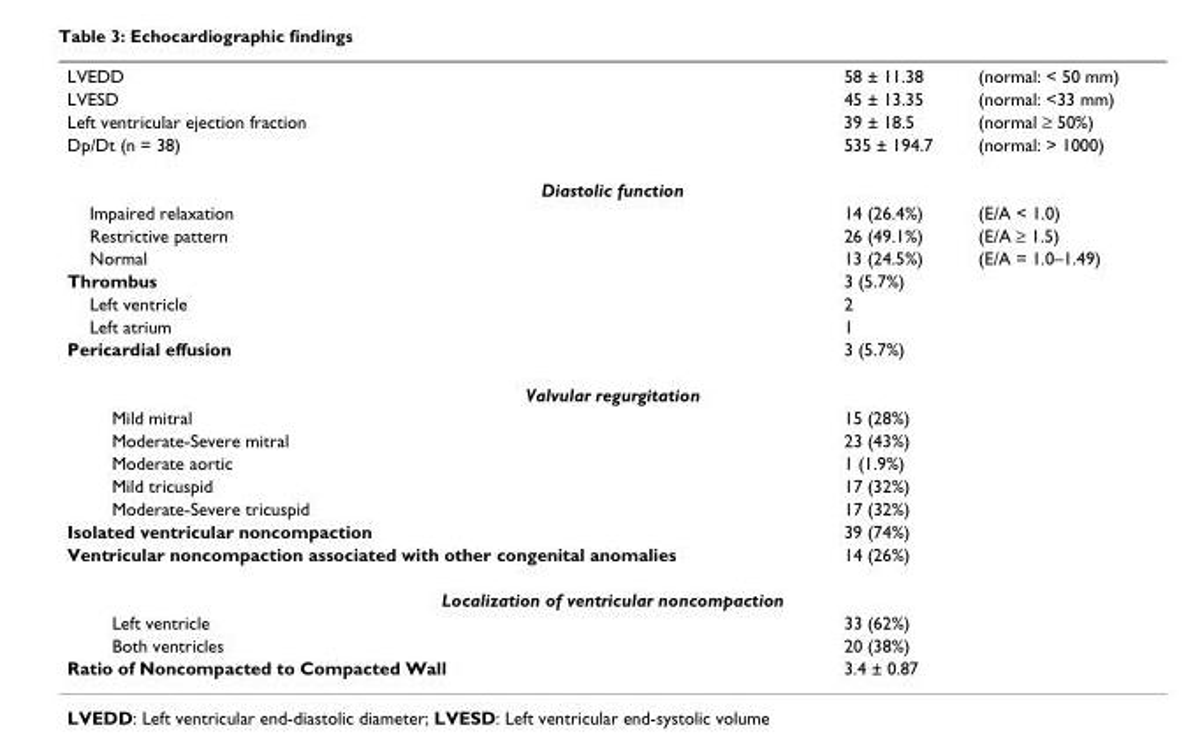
<table><tbody><tr><td>LVEDD</td><td>58 ± 11.38</td><td>(normal: &lt; 50 mm)</td></tr><tr><td>LVESD</td><td>45 ± 13.35</td><td>(normal: &lt;33 mm)</td></tr><tr><td>Left ventricular ejection fraction</td><td>39 ± 18.5</td><td>(normal ≥ 50%)</td></tr><tr><td>Dp/Dt (n = 38)</td><td>535 ± 194.7</td><td>(normal: &gt; 1000)</td></tr><tr><td colspan="3">Diastolic function</td></tr><tr><td>Impaired relaxation</td><td>14 (26.4%)</td><td>(E/A &lt; 1.0)</td></tr><tr><td>Restrictive pattern</td><td>26 (49.1%)</td><td>(E/A ≥ 1.5)</td></tr><tr><td>Normal</td><td>13 (24.5%)</td><td>(E/A = 1.0–1.49)</td></tr><tr><td>Thrombus</td><td>3 (5.7%)</td><td></td></tr><tr><td>Left ventricle</td><td>2</td><td></td></tr><tr><td>Left atrium</td><td>1</td><td></td></tr><tr><td>Pericardial effusion</td><td>3 (5.7%)</td><td></td></tr><tr><td colspan="3">Valvular regurgitation</td></tr><tr><td>Mild mitral</td><td>15 (28%)</td><td></td></tr><tr><td>Moderate-Severe mitral</td><td>23 (43%)</td><td></td></tr><tr><td>Moderate aortic</td><td>1 (1.9%)</td><td></td></tr><tr><td>Mild tricuspid</td><td>17 (32%)</td><td></td></tr><tr><td>Moderate-Severe tricuspid</td><td>17 (32%)</td><td></td></tr><tr><td>Isolated ventricular noncompaction</td><td>39 (74%)</td><td></td></tr><tr><td>Ventricular noncompaction associated with other congenital anomalies</td><td>14 (26%)</td><td></td></tr><tr><td colspan="3">Localization of ventricular noncompaction</td></tr><tr><td>Left ventricle</td><td>33 (62%)</td><td></td></tr><tr><td>Both ventricles</td><td>20 (38%)</td><td></td></tr><tr><td>Ratio of Noncompacted to Compacted Wall</td><td>3.4 ± 0.87</td><td></td></tr></tbody></table>